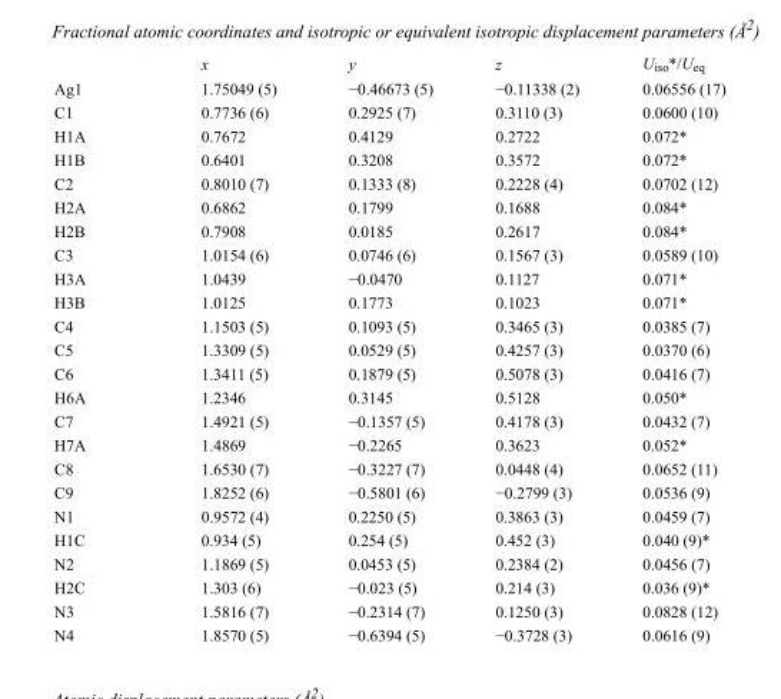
<table><thead><tr><td></td><td>x</td><td>y</td><td>z</td><td>U<sub>iso</sub>*/U<sub>eq</sub></td></tr></thead><tbody><tr><td>Ag1</td><td>1.75049 (5)</td><td>−0.46673 (5)</td><td>−0.11338 (2)</td><td>0.06556 (17)</td></tr><tr><td>C1</td><td>0.7736 (6)</td><td>0.2925 (7)</td><td>0.3110 (3)</td><td>0.0600 (10)</td></tr><tr><td>H1A</td><td>0.7672</td><td>0.4129</td><td>0.2722</td><td>0.072*</td></tr><tr><td>H1B</td><td>0.6401</td><td>0.3208</td><td>0.3572</td><td>0.072*</td></tr><tr><td>C2</td><td>0.8010 (7)</td><td>0.1333 (8)</td><td>0.2228 (4)</td><td>0.0702 (12)</td></tr><tr><td>H2A</td><td>0.6862</td><td>0.1799</td><td>0.1688</td><td>0.084*</td></tr><tr><td>H2B</td><td>0.7908</td><td>0.0185</td><td>0.2617</td><td>0.084*</td></tr><tr><td>C3</td><td>1.0154 (6)</td><td>0.0746 (6)</td><td>0.1567 (3)</td><td>0.0589 (10)</td></tr><tr><td>H3A</td><td>1.0439</td><td>−0.0470</td><td>0.1127</td><td>0.071*</td></tr><tr><td>H3B</td><td>1.0125</td><td>0.1773</td><td>0.1023</td><td>0.071*</td></tr><tr><td>C4</td><td>1.1503 (5)</td><td>0.1093 (5)</td><td>0.3465 (3)</td><td>0.0385 (7)</td></tr><tr><td>C5</td><td>1.3309 (5)</td><td>0.0529 (5)</td><td>0.4257 (3)</td><td>0.0370 (6)</td></tr><tr><td>C6</td><td>1.3411 (5)</td><td>0.1879 (5)</td><td>0.5078 (3)</td><td>0.0416 (7)</td></tr><tr><td>H6A</td><td>1.2346</td><td>0.3145</td><td>0.5128</td><td>0.050*</td></tr><tr><td>C7</td><td>1.4921 (5)</td><td>−0.1357 (5)</td><td>0.4178 (3)</td><td>0.0432 (7)</td></tr><tr><td>H7A</td><td>1.4869</td><td>−0.2265</td><td>0.3623</td><td>0.052*</td></tr><tr><td>C8</td><td>1.6530 (7)</td><td>−0.3227 (7)</td><td>0.0448 (4)</td><td>0.0652 (11)</td></tr><tr><td>C9</td><td>1.8252 (6)</td><td>−0.5801 (6)</td><td>−0.2799 (3)</td><td>0.0536 (9)</td></tr><tr><td>N1</td><td>0.9572 (4)</td><td>0.2250 (5)</td><td>0.3863 (3)</td><td>0.0459 (7)</td></tr><tr><td>H1C</td><td>0.934 (5)</td><td>0.254 (5)</td><td>0.452 (3)</td><td>0.040 (9)*</td></tr><tr><td>N2</td><td>1.1869 (5)</td><td>0.0453 (5)</td><td>0.2384 (2)</td><td>0.0456 (7)</td></tr><tr><td>H2C</td><td>1.303 (6)</td><td>−0.023 (5)</td><td>0.214 (3)</td><td>0.036 (9)*</td></tr><tr><td>N3</td><td>1.5816 (7)</td><td>−0.2314 (7)</td><td>0.1250 (3)</td><td>0.0828 (12)</td></tr><tr><td>N4</td><td>1.8570 (5)</td><td>−0.6394 (5)</td><td>−0.3728 (3)</td><td>0.0616 (9)</td></tr></tbody></table>